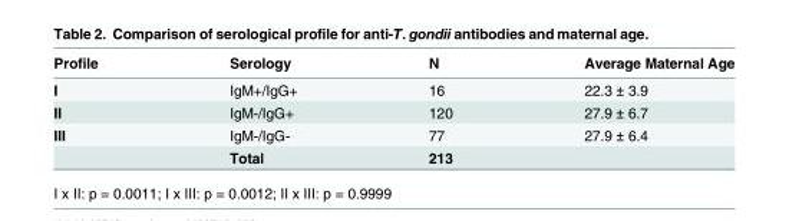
<table><thead><tr><td>Profile</td><td>Serology</td><td>N</td><td>Average Maternal Age</td></tr></thead><tbody><tr><td>I</td><td>IgM+/IgG+</td><td>16</td><td>22.3 ± 3.9</td></tr><tr><td>II</td><td>IgM-/IgG+</td><td>120</td><td>27.9 ± 6.7</td></tr><tr><td rowspan="2">III</td><td>IgM-/IgG-</td><td>77</td><td>27.9 ± 6.4</td></tr><tr><td>Total</td><td>213</td><td></td></tr></tbody></table>